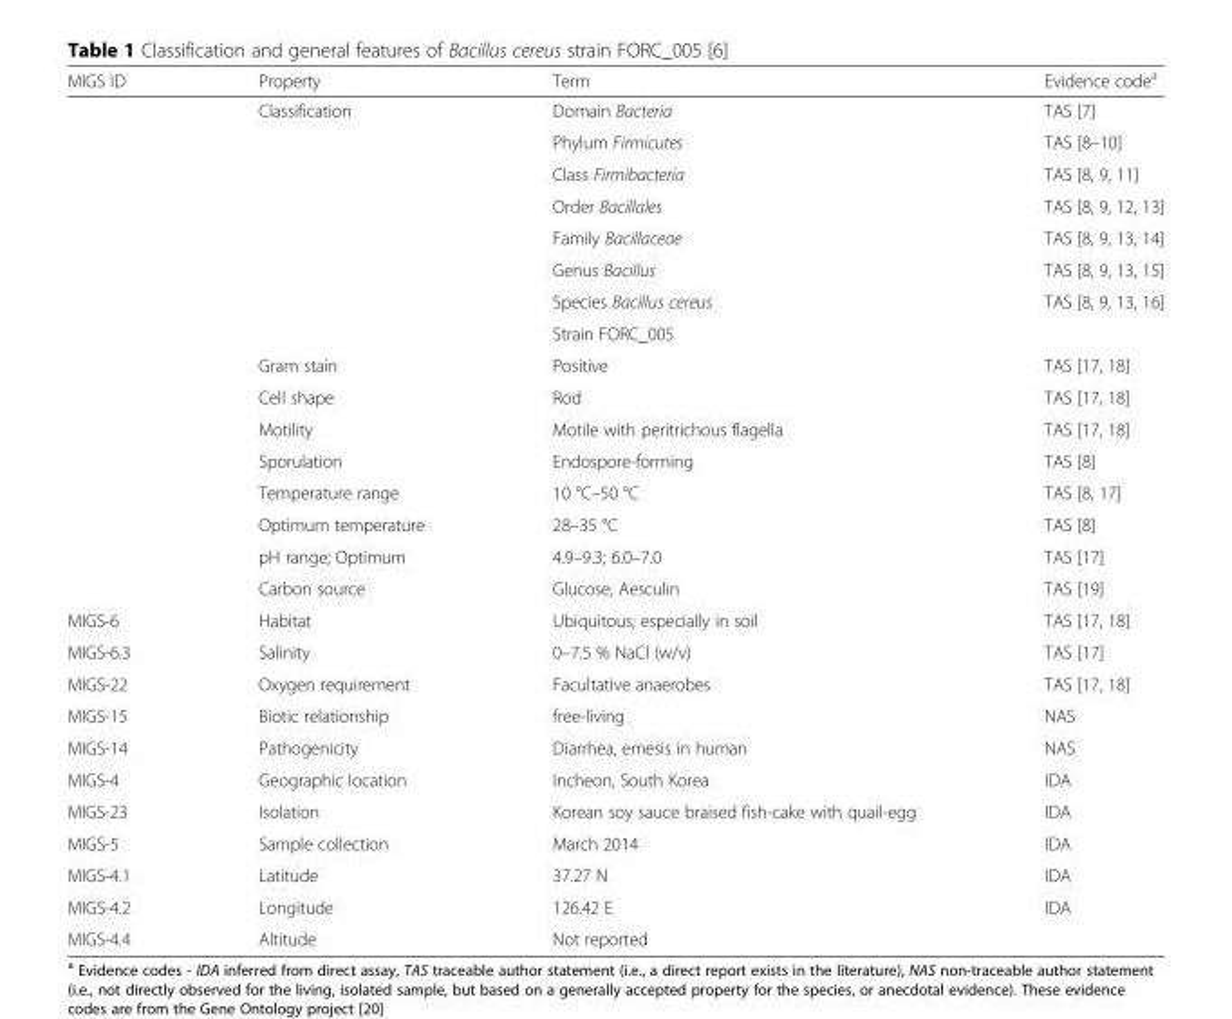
<table><thead><tr><td>MIGS ID</td><td>Property</td><td>Term</td><td>Evidence code<sup>a</sup></td></tr></thead><tbody><tr><td></td><td>Classification</td><td>Domain Bacteria</td><td>TAS [7]</td></tr><tr><td></td><td></td><td>Phylum Firmicutes</td><td>TAS [8–10]</td></tr><tr><td></td><td></td><td>Class Firmibacteria</td><td>TAS [8, 9, 11]</td></tr><tr><td></td><td></td><td>Order Bacillales</td><td>TAS [8, 9, 12, 13]</td></tr><tr><td></td><td></td><td>Family Bacillaceae</td><td>TAS [8, 9, 13, 14]</td></tr><tr><td></td><td></td><td>Genus Bacillus</td><td>TAS [8, 9, 13, 15]</td></tr><tr><td></td><td></td><td>Species Bacillus cereus</td><td>TAS [8, 9, 13, 16]</td></tr><tr><td></td><td></td><td>Strain FORC_005</td><td></td></tr><tr><td></td><td>Gram stain</td><td>Positive</td><td>TAS [17, 18]</td></tr><tr><td></td><td>Cell shape</td><td>Rod</td><td>TAS [17, 18]</td></tr><tr><td></td><td>Motility</td><td>Motile with peritrichous flagella</td><td>TAS [17, 18]</td></tr><tr><td></td><td>Sporulation</td><td>Endospore-forming</td><td>TAS [8]</td></tr><tr><td></td><td>Temperature range</td><td>10 °C–50 °C</td><td>TAS [8, 17]</td></tr><tr><td></td><td>Optimum temperature</td><td>28–35 °C</td><td>TAS [8]</td></tr><tr><td></td><td>pH range; Optimum</td><td>4.9–9.3; 6.0–7.0</td><td>TAS [17]</td></tr><tr><td></td><td>Carbon source</td><td>Glucose, Aesculin</td><td>TAS [19]</td></tr><tr><td>MIGS-6</td><td>Habitat</td><td>Ubiquitous; especially in soil</td><td>TAS [17, 18]</td></tr><tr><td>MIGS-6.3</td><td>Salinity</td><td>0–7.5 % NaCl (w/v)</td><td>TAS [17]</td></tr><tr><td>MIGS-22</td><td>Oxygen requirement</td><td>Facultative anaerobes</td><td>TAS [17, 18]</td></tr><tr><td>MIGS-15</td><td>Biotic relationship</td><td>free-living</td><td>NAS</td></tr><tr><td>MIGS-14</td><td>Pathogenicity</td><td>Diarrhea, emesis in human</td><td>NAS</td></tr><tr><td>MIGS-4</td><td>Geographic location</td><td>Incheon, South Korea</td><td>IDA</td></tr><tr><td>MIGS-23</td><td>Isolation</td><td>Korean soy sauce braised fish-cake with quail-egg</td><td>IDA</td></tr><tr><td>MIGS-5</td><td>Sample collection</td><td>March 2014</td><td>IDA</td></tr><tr><td>MIGS-4.1</td><td>Latitude</td><td>37.27 N</td><td>IDA</td></tr><tr><td>MIGS-4.2</td><td>Longitude</td><td>126.42 E</td><td>IDA</td></tr><tr><td>MIGS-4.4</td><td>Altitude</td><td>Not reported</td><td></td></tr></tbody></table>